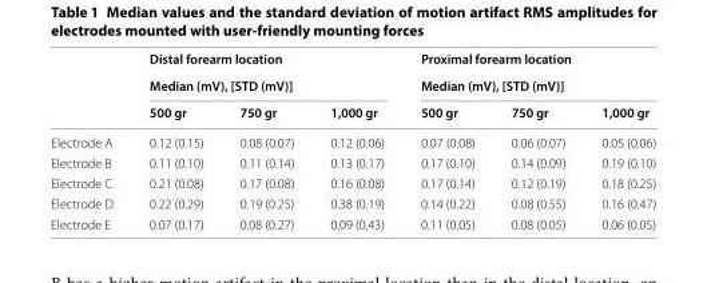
<table><thead><tr><td rowspan="3"></td><td rowspan="2" colspan="3">Distal forearm location Median (mV), [STD (mV)]</td><td rowspan="2" colspan="3">Proximal forearm location Median (mV), [STD (mV)]</td></tr><tr></tr><tr><td>500 gr</td><td>750 gr</td><td>1,000 gr</td><td>500 gr</td><td>750 gr</td><td>1,000 gr</td></tr></thead><tbody><tr><td>Electrode A</td><td>0.12 (0.15)</td><td>0.08 (0.07)</td><td>0.12 (0.06)</td><td>0.07 (0.08)</td><td>0.06 (0.07)</td><td>0.05 (0.06)</td></tr><tr><td>Electrode B</td><td>0.11 (0.10)</td><td>0.11 (0.14)</td><td>0.13 (0.17)</td><td>0.17 (0.10)</td><td>0.14 (0.09)</td><td>0.19 (0.10)</td></tr><tr><td>Electrode C</td><td>0.21 (0.08)</td><td>0.17 (0.08)</td><td>0.16 (0.08)</td><td>0.17 (0.14)</td><td>0.12 (0.19)</td><td>0.18 (0.25)</td></tr><tr><td>Electrode D</td><td>0.22 (0.29)</td><td>0.19 (0.25)</td><td>0.38 (0.19)</td><td>0.14 (0.22)</td><td>0.08 (0.55)</td><td>0.16 (0.47)</td></tr><tr><td>Electrode E</td><td>0.07 (0.17)</td><td>0.08 (0.27)</td><td>0.09 (0.43)</td><td>0.11 (0.05)</td><td>0.08 (0.05)</td><td>0.06 (0.05)</td></tr></tbody></table>